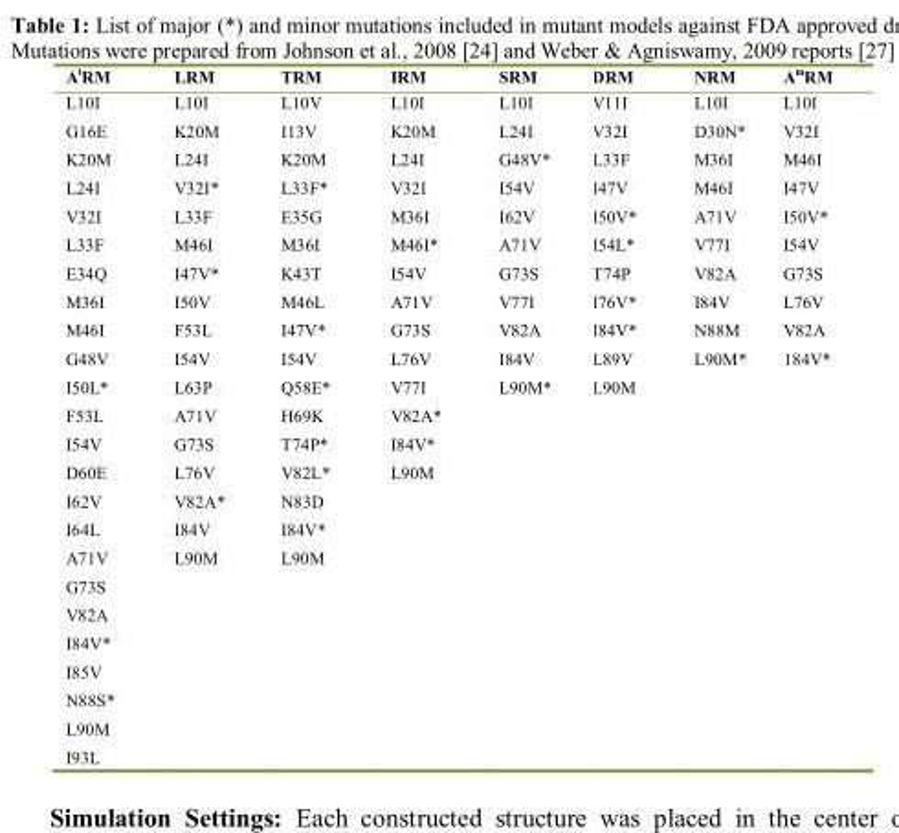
<table><thead><tr><td>A<sup>t</sup>RM</td><td>LRM</td><td>TRM</td><td>IRM</td><td>SRM</td><td>DRM</td><td>NRM</td><td>A<sup>m</sup>RM</td></tr></thead><tbody><tr><td>L10I</td><td>L10I</td><td>L10V</td><td>L10I</td><td>L10I</td><td>V11I</td><td>L10I</td><td>L10I</td></tr><tr><td>G16E</td><td>K20M</td><td>I13V</td><td>K20M</td><td>L24I</td><td>V32I</td><td>D30N*</td><td>V32I</td></tr><tr><td>K20M</td><td>L24I</td><td>K20M</td><td>L24I</td><td>G48V*</td><td>L33F</td><td>M36I</td><td>M46I</td></tr><tr><td>L24I</td><td>V32I*</td><td>L33F*</td><td>V32I</td><td>I54V</td><td>I47V</td><td>M46I</td><td>I47V</td></tr><tr><td>V32I</td><td>L33F</td><td>E35G</td><td>M36I</td><td>I62V</td><td>I50V*</td><td>A71V</td><td>I50V*</td></tr><tr><td>L33F</td><td>M46I</td><td>M36I</td><td>M46I*</td><td>A71V</td><td>I54L*</td><td>V77I</td><td>I54V</td></tr><tr><td>E34Q</td><td>I47V*</td><td>K43T</td><td>I54V</td><td>G73S</td><td>T74P</td><td>V82A</td><td>G73S</td></tr><tr><td>M36I</td><td>I50V</td><td>M46L</td><td>A71V</td><td>V77I</td><td>I76V*</td><td>I84V</td><td>L76V</td></tr><tr><td>M46I</td><td>F53L</td><td>I47V*</td><td>G73S</td><td>V82A</td><td>I84V*</td><td>N88M</td><td>V82A</td></tr><tr><td>G48V</td><td>I54V</td><td>I54V</td><td>L76V</td><td>I84V</td><td>L89V</td><td>L90M*</td><td>184V*</td></tr><tr><td>I50L*</td><td>L63P</td><td>Q58E*</td><td>V77I</td><td>L90M*</td><td>L90M</td><td></td><td></td></tr><tr><td>F53L</td><td>A71V</td><td>H69K</td><td>V82A*</td><td></td><td></td><td></td><td></td></tr><tr><td>I54V</td><td>G73S</td><td>T74P*</td><td>I84V*</td><td></td><td></td><td></td><td></td></tr><tr><td>D60E</td><td>L76V</td><td>V82L*</td><td>L90M</td><td></td><td></td><td></td><td></td></tr><tr><td>I62V</td><td>V82A*</td><td>N83D</td><td></td><td></td><td></td><td></td><td></td></tr><tr><td>I64L</td><td>I84V</td><td>I84V*</td><td></td><td></td><td></td><td></td><td></td></tr><tr><td>A71V</td><td>L90M</td><td>L90M</td><td></td><td></td><td></td><td></td><td></td></tr><tr><td colspan="8">G73S</td></tr><tr><td colspan="8">V82A</td></tr><tr><td colspan="8">I84V*</td></tr><tr><td colspan="8">I85V</td></tr><tr><td colspan="8">N88S*</td></tr><tr><td colspan="8">L90M</td></tr><tr><td>I93L</td><td></td><td></td><td></td><td></td><td></td><td></td><td></td></tr></tbody></table>